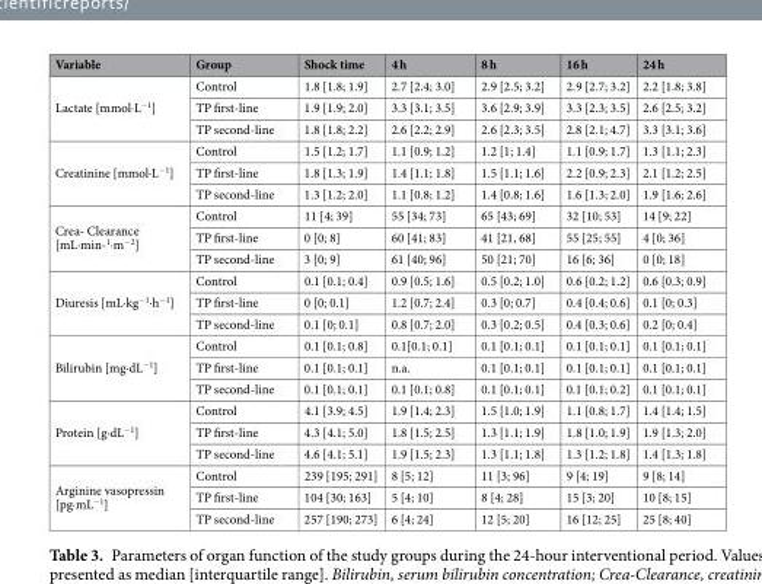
<table><thead><tr><td>Variable</td><td>Group</td><td>Shock time</td><td>4 h</td><td>8 h</td><td>16 h</td><td>24 h</td></tr></thead><tbody><tr><td rowspan="3">Lactate [mmol·L<sup>−1</sup>]</td><td>Control</td><td>1.8 [1.8; 1.9]</td><td>2.7 [2.4; 3.0]</td><td>2.9 [2.5; 3.2]</td><td>2.9 [2.7; 3.2]</td><td>2.2 [1.8; 3.8]</td></tr><tr><td>TP first-line</td><td>1.9 [1.9; 2.0]</td><td>3.3 [3.1; 3.5]</td><td>3.6 [2.9; 3.9]</td><td>3.3 [2.3; 3.5]</td><td>2.6 [2.5; 3.2]</td></tr><tr><td>TP second-line</td><td>1.8 [1.8; 2.2]</td><td>2.6 [2.2; 2.9]</td><td>2.6 [2.3; 3.5]</td><td>2.8 [2.1; 4.7]</td><td>3.3 [3.1; 3.6]</td></tr><tr><td rowspan="3">Creatinine [mmol·L<sup>−1</sup>]</td><td>Control</td><td>1.5 [1.2; 1.7]</td><td>1.1 [0.9; 1.2]</td><td>1.2 [1; 1.4]</td><td>1.1 [0.9; 1.7]</td><td>1.3 [1.1; 2.3]</td></tr><tr><td>TP first-line</td><td>1.8 [1.3; 1.9]</td><td>1.4 [1.1; 1.8]</td><td>1.5 [1.1; 1.6]</td><td>2.2 [0.9; 2.3]</td><td>2.1 [1.2; 2.5]</td></tr><tr><td>TP second-line</td><td>1.3 [1.2; 2.0]</td><td>1.1 [0.8; 1.2]</td><td>1.4 [0.8; 1.6]</td><td>1.6 [1.3; 2.0]</td><td>1.9 [1.6; 2.6]</td></tr><tr><td rowspan="3">Crea- Clearance [mL·min-<sup>1</sup>·m<sup>−2</sup>]</td><td>Control</td><td>11 [4; 39]</td><td>55 [34; 73]</td><td>65 [43; 69]</td><td>32 [10; 53]</td><td>14 [9; 22]</td></tr><tr><td>TP first-line</td><td>0 [0; 8]</td><td>60 [41; 83]</td><td>41 [21, 68]</td><td>55 [25; 55]</td><td>4 [0; 36]</td></tr><tr><td>TP second-line</td><td>3 [0; 9]</td><td>61 [40; 96]</td><td>50 [21; 70]</td><td>16 [6; 36]</td><td>0 [0; 18]</td></tr><tr><td rowspan="3">Diuresis [mL·kg<sup>−1</sup>·h<sup>−1</sup>]</td><td>Control</td><td>0.1 [0.1; 0.4]</td><td>0.9 [0.5; 1.6]</td><td>0.5 [0.2; 1.0]</td><td>0.6 [0.2; 1.2]</td><td>0.6 [0.3; 0.9]</td></tr><tr><td>TP first-line</td><td>0 [0; 0.1]</td><td>1.2 [0.7; 2.4]</td><td>0.3 [0; 0.7]</td><td>0.4 [0.4; 0.6]</td><td>0.1 [0; 0.3]</td></tr><tr><td>TP second-line</td><td>0.1 [0; 0.1]</td><td>0.8 [0.7; 2.0]</td><td>0.3 [0.2; 0.5]</td><td>0.4 [0.3; 0.6]</td><td>0.2 [0; 0.4]</td></tr><tr><td rowspan="3">Bilirubin [mg·dL<sup>−1</sup>]</td><td>Control</td><td>0.1 [0.1; 0.8]</td><td>0.1[0.1; 0.1]</td><td>0.1 [0.1; 0.1]</td><td>0.1 [0.1; 0.1]</td><td>0.1 [0.1; 0.1]</td></tr><tr><td>TP first-line</td><td>0.1 [0.1; 0.1]</td><td>n.a.</td><td>0.1 [0.1; 0.1]</td><td>0.1 [0.1; 0.1]</td><td>0.1 [0.1; 0.1]</td></tr><tr><td>TP second-line</td><td>0.1 [0.1; 0.1]</td><td>0.1 [0.1; 0.8]</td><td>0.1 [0.1; 0.1]</td><td>0.1 [0.1; 0.2]</td><td>0.1 [0.1; 0.1]</td></tr><tr><td rowspan="3">Protein [g·dL<sup>−1</sup>]</td><td>Control</td><td>4.1 [3.9; 4.5]</td><td>1.9 [1.4; 2.3]</td><td>1.5 [1.0; 1.9]</td><td>1.1 [0.8; 1.7]</td><td>1.4 [1.4; 1.5]</td></tr><tr><td>TP first-line</td><td>4.3 [4.1; 5.0]</td><td>1.8 [1.5; 2.5]</td><td>1.3 [1.1; 1.9]</td><td>1.8 [1.0; 1.9]</td><td>1.9 [1.3; 2.0]</td></tr><tr><td>TP second-line</td><td>4.6 [4.1; 5.1]</td><td>1.9 [1.5; 2.3]</td><td>1.3 [1.1; 1.8]</td><td>1.3 [1.2; 1.8]</td><td>1.4 [1.3; 1.8]</td></tr><tr><td rowspan="3">Arginine vasopressin [pg·mL<sup>−1</sup>]</td><td>Control</td><td>239 [195; 291]</td><td>8 [5; 12]</td><td>11 [3; 96]</td><td>9 [4; 19]</td><td>9 [8; 14]</td></tr><tr><td>TP first-line</td><td>104 [30; 163]</td><td>5 [4; 10]</td><td>8 [4; 28]</td><td>15 [3; 20]</td><td>10 [8; 15]</td></tr><tr><td>TP second-line</td><td>257 [190; 273]</td><td>6 [4; 24]</td><td>12 [5; 20]</td><td>16 [12; 25]</td><td>25 [8; 40]</td></tr></tbody></table>